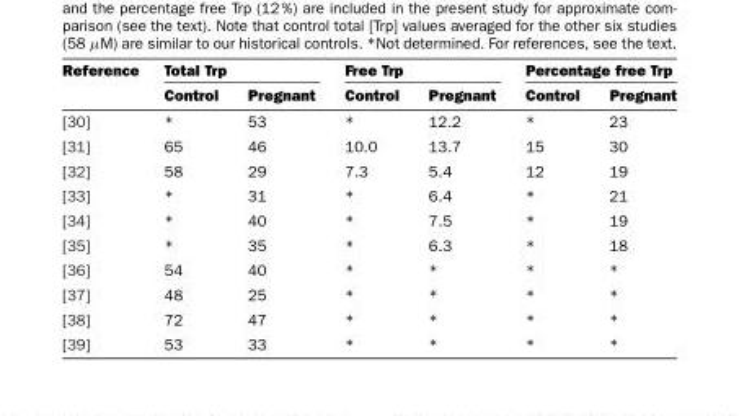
<table><thead><tr><td rowspan="2">Reference</td><td colspan="2">Total Trp</td><td colspan="2">Free Trp</td><td colspan="2">Percentage free Trp</td></tr><tr><td>Control</td><td>Pregnant</td><td>Control</td><td>Pregnant</td><td>Control</td><td>Pregnant</td></tr></thead><tbody><tr><td>[30]</td><td>*</td><td>53</td><td>*</td><td>12.2</td><td>*</td><td>23</td></tr><tr><td>[31]</td><td>65</td><td>46</td><td>10.0</td><td>13.7</td><td>15</td><td>30</td></tr><tr><td>[32]</td><td>58</td><td>29</td><td>7.3</td><td>5.4</td><td>12</td><td>19</td></tr><tr><td>[33]</td><td>*</td><td>31</td><td>*</td><td>6.4</td><td>*</td><td>21</td></tr><tr><td>[34]</td><td>*</td><td>40</td><td>*</td><td>7.5</td><td>*</td><td>19</td></tr><tr><td>[35]</td><td>*</td><td>35</td><td>*</td><td>6.3</td><td>*</td><td>18</td></tr><tr><td>[36]</td><td>54</td><td>40</td><td>*</td><td>*</td><td>*</td><td>*</td></tr><tr><td>[37]</td><td>48</td><td>25</td><td>*</td><td>*</td><td>*</td><td>*</td></tr><tr><td>[38]</td><td>72</td><td>47</td><td>*</td><td>*</td><td>*</td><td>*</td></tr><tr><td>[39]</td><td>53</td><td>33</td><td>*</td><td>*</td><td>*</td><td>*</td></tr></tbody></table>